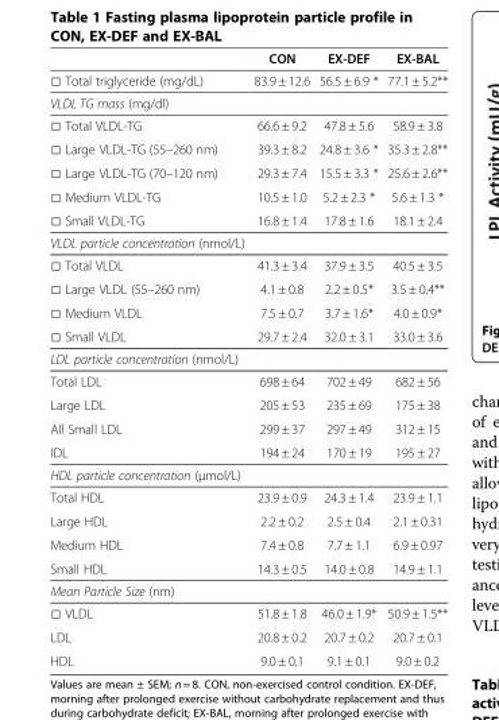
<table><thead><tr><td></td><td>CON</td><td>EX-DEF</td><td>EX-BAL</td></tr></thead><tbody><tr><td>□ Total triglyceride (mg/dL)</td><td>83.9 ± 12.6</td><td>56.5 ± 6.9 *</td><td>77.1 ± 5.2**</td></tr><tr><td colspan="4">VLDL TG mass (mg/dl)</td></tr><tr><td>□ Total VLDL-TG</td><td>66.6 ± 9.2</td><td>47.8 ± 5.6</td><td>58.9 ± 3.8</td></tr><tr><td>□ Large VLDL-TG (55–260 nm)</td><td>39.3 ± 8.2</td><td>24.8 ± 3.6 *</td><td>35.3 ± 2.8**</td></tr><tr><td>□ Large VLDL-TG (70–120 nm)</td><td>29.3 ± 7.4</td><td>15.5 ± 3.3 *</td><td>25.6 ± 2.6**</td></tr><tr><td>□ Medium VLDL-TG</td><td>10.5 ± 1.0</td><td>5.2 ± 2.3 *</td><td>5.6 ± 1.3 *</td></tr><tr><td>□ Small VLDL-TG</td><td>16.8 ± 1.4</td><td>17.8 ± 1.6</td><td>18.1 ± 2.4</td></tr><tr><td colspan="4">VLDL particle concentration (nmol/L)</td></tr><tr><td>□ Total VLDL</td><td>41.3 ± 3.4</td><td>37.9 ± 3.5</td><td>40.5 ± 3.5</td></tr><tr><td>□ Large VLDL (55–260 nm)</td><td>4.1 ± 0.8</td><td>2.2 ± 0.5*</td><td>3.5 ± 0.4**</td></tr><tr><td>□ Medium VLDL</td><td>7.5 ± 0.7</td><td>3.7 ± 1.6*</td><td>4.0 ± 0.9*</td></tr><tr><td>□ Small VLDL</td><td>29.7 ± 2.4</td><td>32.0 ± 3.1</td><td>33.0 ± 3.6</td></tr><tr><td colspan="4">LDL particle concentration (nmol/L)</td></tr><tr><td>Total LDL</td><td>698 ± 64</td><td>702 ± 49</td><td>682 ± 56</td></tr><tr><td>Large LDL</td><td>205 ± 53</td><td>235 ± 69</td><td>175 ± 38</td></tr><tr><td>All Small LDL</td><td>299 ± 37</td><td>297 ± 49</td><td>312 ± 15</td></tr><tr><td>IDL</td><td>194 ± 24</td><td>170 ± 19</td><td>195 ± 27</td></tr><tr><td colspan="4">HDL particle concentration (μmol/L)</td></tr><tr><td>Total HDL</td><td>23.9 ± 0.9</td><td>24.3 ± 1.4</td><td>23.9 ± 1.1</td></tr><tr><td>Large HDL</td><td>2.2 ± 0.2</td><td>2.5 ± 0.4</td><td>2.1 ± 0.31</td></tr><tr><td>Medium HDL</td><td>7.4 ± 0.8</td><td>7.7 ± 1.1</td><td>6.9 ± 0.97</td></tr><tr><td>Small HDL</td><td>14.3 ± 0.5</td><td>14.0 ± 0.8</td><td>14.9 ± 1.1</td></tr><tr><td colspan="4">Mean Particle Size (nm)</td></tr><tr><td>□ VLDL</td><td>51.8 ± 1.8</td><td>46.0 ± 1.9*</td><td>50.9 ± 1.5**</td></tr><tr><td>LDL</td><td>20.8 ± 0.2</td><td>20.7 ± 0.2</td><td>20.7 ± 0.1</td></tr><tr><td>HDL</td><td>9.0 ± 0.1</td><td>9.1 ± 0.1</td><td>9.0 ± 0.2</td></tr></tbody></table>